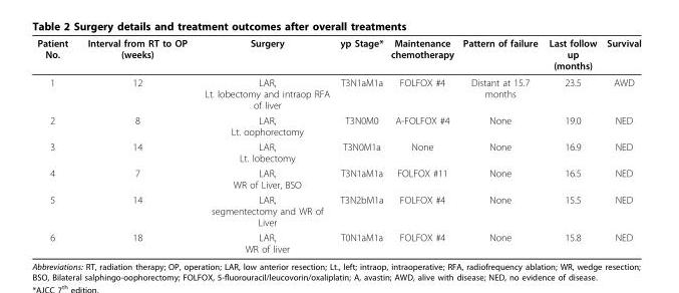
<table><thead><tr><td>Patient No.</td><td>Interval from RT to OP (weeks)</td><td>Surgery</td><td>yp Stage*</td><td>Maintenance chemotherapy</td><td>Pattern of failure</td><td>Last follow up (months)</td><td>Survival</td></tr></thead><tbody><tr><td>1</td><td>12</td><td>LAR, Lt. lobectomy and intraop RFA of liver</td><td>T3N1aM1a</td><td>FOLFOX #4</td><td>Distant at 15.7 months</td><td>23.5</td><td>AWD</td></tr><tr><td>2</td><td>8</td><td>LAR, Lt. oophorectomy</td><td>T3N0M0</td><td>A-FOLFOX #4</td><td>None</td><td>19.0</td><td>NED</td></tr><tr><td>3</td><td>14</td><td>LAR, Lt. lobectomy</td><td>T3N0M1a</td><td>None</td><td>None</td><td>16.9</td><td>NED</td></tr><tr><td>4</td><td>7</td><td>LAR, WR of Liver, BSO</td><td>T3N1aM1a</td><td>FOLFOX #11</td><td>None</td><td>16.5</td><td>NED</td></tr><tr><td>5</td><td>14</td><td>LAR, segmentectomy and WR of Liver</td><td>T3N2bM1a</td><td>FOLFOX #4</td><td>None</td><td>15.5</td><td>NED</td></tr><tr><td>6</td><td>18</td><td>LAR, WR of liver</td><td>T0N1aM1a</td><td>FOLFOX #4</td><td>None</td><td>15.8</td><td>NED</td></tr></tbody></table>